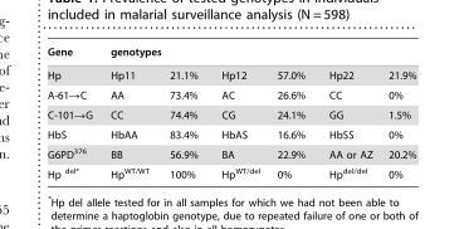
<table><thead><tr><td rowspan="2">Gene Hp</td><td colspan="2">genotypes</td><td rowspan="2">Hp12</td><td rowspan="2">57.0%</td><td rowspan="2">Hp22</td><td rowspan="2">21.9%</td></tr><tr><td>Hp11</td><td>21.1%</td></tr></thead><tbody><tr><td>A-61→C</td><td>AA</td><td>73.4%</td><td>AC</td><td>26.6%</td><td>CC</td><td>0%</td></tr><tr><td>C-101→G</td><td>CC</td><td>74.4%</td><td>CG</td><td>24.1%</td><td>GG</td><td>1.5%</td></tr><tr><td>HbS</td><td>HbAA</td><td>83.4%</td><td>HbAS</td><td>16.6%</td><td>HbSS</td><td>0%</td></tr><tr><td>G6PD<sup>376</sup></td><td>BB</td><td>56.9%</td><td>BA</td><td>22.9%</td><td>AA or AZ</td><td>20.2%</td></tr><tr><td>Hp <sup>del*</sup></td><td>Hp<sup>WT/WT</sup></td><td>100%</td><td>Hp<sup>WT/del</sup></td><td>0%</td><td>Hp<sup>del/del</sup></td><td>0%</td></tr></tbody></table>